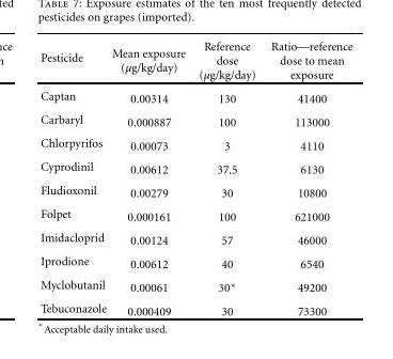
<table><thead><tr><td>Pesticide</td><td>Mean exposure (µg/kg/day)</td><td>Reference dose (µg/kg/day)</td><td>Ratio—reference dose to mean exposure</td></tr></thead><tbody><tr><td>Captan</td><td>0.00314</td><td>130</td><td>41400</td></tr><tr><td>Carbaryl</td><td>0.000887</td><td>100</td><td>113000</td></tr><tr><td>Chlorpyrifos</td><td>0.00073</td><td>3</td><td>4110</td></tr><tr><td>Cyprodinil</td><td>0.00612</td><td>37.5</td><td>6130</td></tr><tr><td>Fludioxonil</td><td>0.00279</td><td>30</td><td>10800</td></tr><tr><td>Folpet</td><td>0.000161</td><td>100</td><td>621000</td></tr><tr><td>Imidacloprid</td><td>0.00124</td><td>57</td><td>46000</td></tr><tr><td>Iprodione</td><td>0.00612</td><td>40</td><td>6540</td></tr><tr><td>Myclobutanil</td><td>0.00061</td><td>30∗</td><td>49200</td></tr><tr><td>Tebuconazole</td><td>0.000409</td><td>30</td><td>73300</td></tr></tbody></table>